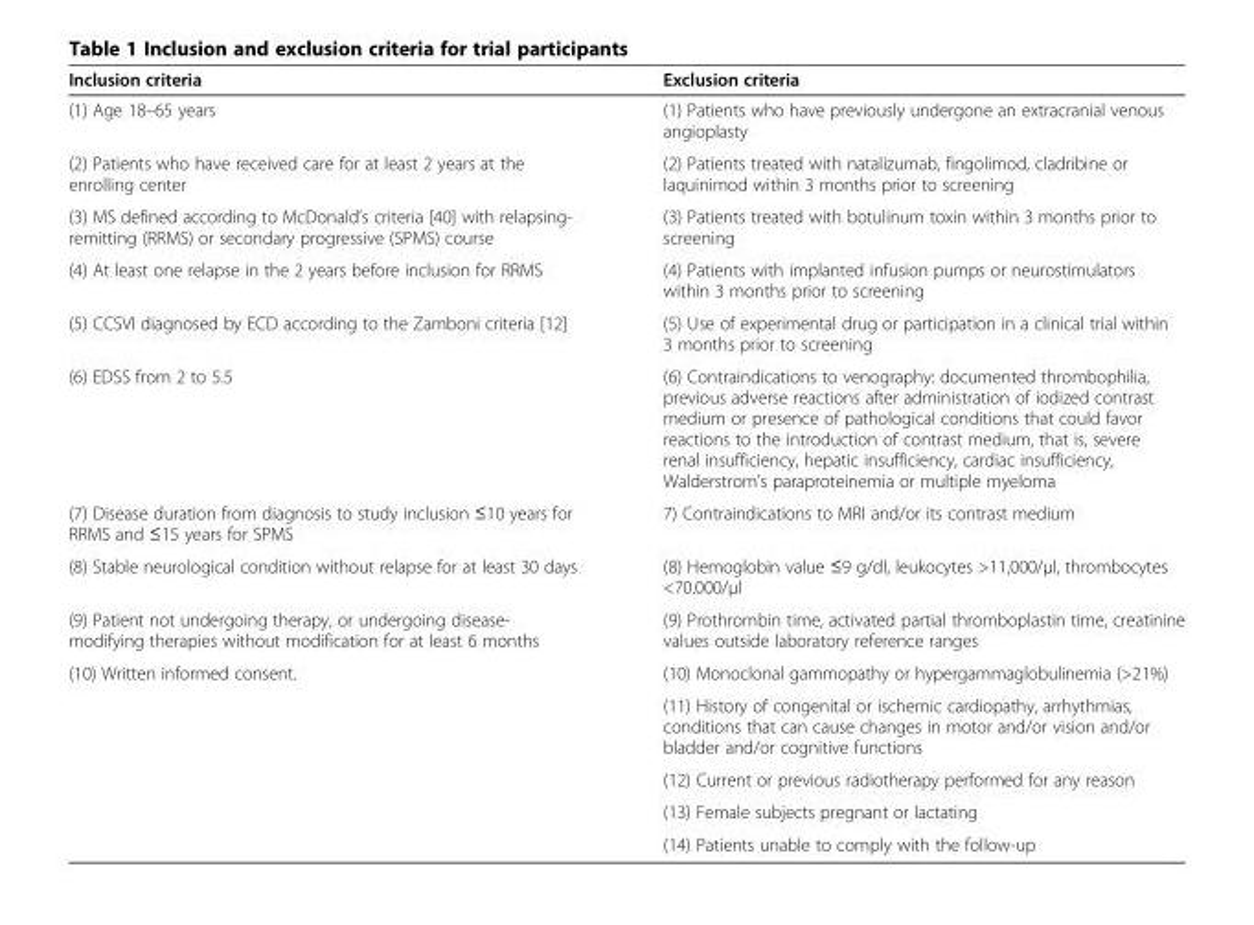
<table><thead><tr><td>Inclusion criteria</td><td>Exclusion criteria</td></tr></thead><tbody><tr><td>(1) Age 18–65 years</td><td>(1) Patients who have previously undergone an extracranial venous angioplasty</td></tr><tr><td>(2) Patients who have received care for at least 2 years at the enrolling center</td><td>(2) Patients treated with natalizumab, fingolimod, cladribine or laquinimod within 3 months prior to screening</td></tr><tr><td>(3) MS defined according to McDonald’s criteria [40] with relapsing- remitting (RRMS) or secondary progressive (SPMS) course</td><td>(3) Patients treated with botulinum toxin within 3 months prior to screening</td></tr><tr><td>(4) At least one relapse in the 2 years before inclusion for RRMS</td><td>(4) Patients with implanted infusion pumps or neurostimulators within 3 months prior to screening</td></tr><tr><td>(5) CCSVI diagnosed by ECD according to the Zamboni criteria [12]</td><td>(5) Use of experimental drug or participation in a clinical trial within 3 months prior to screening</td></tr><tr><td>(6) EDSS from 2 to 5.5</td><td>(6) Contraindications to venography: documented thrombophilia, previous adverse reactions after administration of iodized contrast medium or presence of pathological conditions that could favor reactions to the introduction of contrast medium, that is, severe renal insufficiency, hepatic insufficiency, cardiac insufficiency, Walderstrom’s paraproteinemia or multiple myeloma</td></tr><tr><td>(7) Disease duration from diagnosis to study inclusion ≤10 years for RRMS and ≤15 years for SPMS</td><td>7) Contraindications to MRI and/or its contrast medium</td></tr><tr><td>(8) Stable neurological condition without relapse for at least 30 days</td><td>(8) Hemoglobin value ≤9 g/dl, leukocytes &gt;11,000/μl, thrombocytes &lt;70.000/μl</td></tr><tr><td>(9) Patient not undergoing therapy, or undergoing disease- modifying therapies without modification for at least 6 months</td><td>(9) Prothrombin time, activated partial thromboplastin time, creatinine values outside laboratory reference ranges</td></tr><tr><td rowspan="5">(10) Written informed consent.</td><td>(10) Monoclonal gammopathy or hypergammaglobulinemia (&gt;21%)</td></tr><tr><td>(11) History of congenital or ischemic cardiopathy, arrhythmias, conditions that can cause changes in motor and/or vision and/or bladder and/or cognitive functions</td></tr><tr><td>(12) Current or previous radiotherapy performed for any reason</td></tr><tr><td>(13) Female subjects pregnant or lactating</td></tr><tr><td>(14) Patients unable to comply with the follow-up</td></tr></tbody></table>